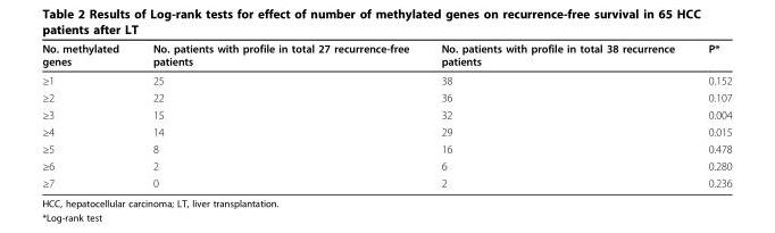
<table><thead><tr><td>No. methylated genes</td><td>No. patients with profile in total 27 recurrence-free patients</td><td>No. patients with profile in total 38 recurrence patients</td><td>P*</td></tr></thead><tbody><tr><td>≥1</td><td>25</td><td>38</td><td>0.152</td></tr><tr><td>≥2</td><td>22</td><td>36</td><td>0.107</td></tr><tr><td>≥3</td><td>15</td><td>32</td><td>0.004</td></tr><tr><td>≥4</td><td>14</td><td>29</td><td>0.015</td></tr><tr><td>≥5</td><td>8</td><td>16</td><td>0.478</td></tr><tr><td>≥6</td><td>2</td><td>6</td><td>0.280</td></tr><tr><td>≥7</td><td>0</td><td>2</td><td>0.236</td></tr></tbody></table>